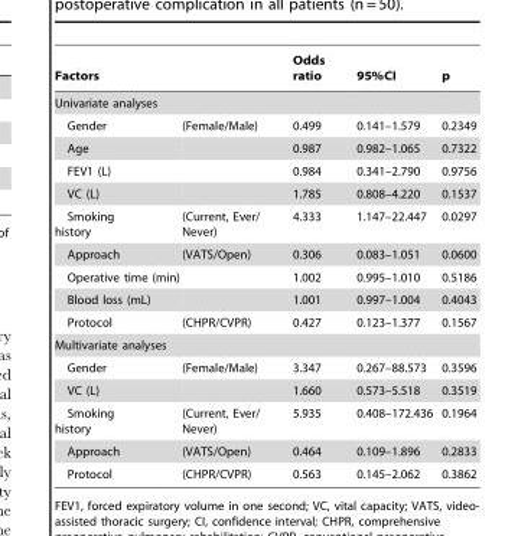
<table><thead><tr><td colspan="2">Factors</td><td>Odds ratio</td><td>95%CI</td><td>p</td></tr><tr><td colspan="5">Univariate analyses</td></tr><tr><td>Gender</td><td>(Female/Male)</td><td>0.499</td><td>0.141–1.579</td><td>0.2349</td></tr></thead><tbody><tr><td>Age</td><td></td><td>0.987</td><td>0.982–1.065</td><td>0.7322</td></tr><tr><td>FEV1 (L)</td><td></td><td>0.984</td><td>0.341–2.790</td><td>0.9756</td></tr><tr><td>VC (L)</td><td></td><td>1.785</td><td>0.808–4.220</td><td>0.1537</td></tr><tr><td>Smoking history</td><td>(Current, Ever/ Never)</td><td>4.333</td><td>1.147–22.447</td><td>0.0297</td></tr><tr><td>Approach</td><td>(VATS/Open)</td><td>0.306</td><td>0.083–1.051</td><td>0.0600</td></tr><tr><td>Operative time (min)</td><td></td><td>1.002</td><td>0.995–1.010</td><td>0.5186</td></tr><tr><td>Blood loss (mL)</td><td></td><td>1.001</td><td>0.997–1.004</td><td>0.4043</td></tr><tr><td>Protocol</td><td>(CHPR/CVPR)</td><td>0.427</td><td>0.123–1.377</td><td>0.1567</td></tr><tr><td colspan="5">Multivariate analyses</td></tr><tr><td>Gender</td><td>(Female/Male)</td><td>3.347</td><td>0.267–88.573</td><td>0.3596</td></tr><tr><td>VC (L)</td><td></td><td>1.660</td><td>0.573–5.518</td><td>0.3519</td></tr><tr><td>Smoking history</td><td>(Current, Ever/ Never)</td><td>5.935</td><td>0.408–172.436</td><td>0.1964</td></tr><tr><td>Approach</td><td>(VATS/Open)</td><td>0.464</td><td>0.109–1.896</td><td>0.2833</td></tr><tr><td>Protocol</td><td>(CHPR/CVPR)</td><td>0.563</td><td>0.145–2.062</td><td>0.3862</td></tr></tbody></table>